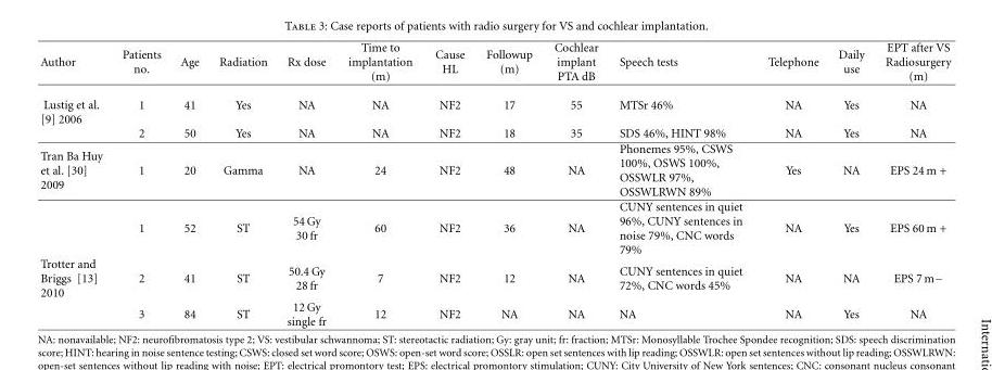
<table><thead><tr><td>Author</td><td>Patients no.</td><td>Age</td><td>Radiation</td><td>Rx dose</td><td>Time to implantation (m)</td><td>Cause HL</td><td>Followup (m)</td><td>Cochlear implant PTA dB</td><td>Speech tests</td><td>Telephone</td><td>Daily use</td><td>EPT after VS Radiosurgery (m)</td></tr></thead><tbody><tr><td rowspan="2">Lustig et al. [9] 2006</td><td>1</td><td>41</td><td>Yes</td><td>NA</td><td>NA</td><td>NF2</td><td>17</td><td>55</td><td>MTSr 46%</td><td>NA</td><td>Yes</td><td>NA</td></tr><tr><td>2</td><td>50</td><td>Yes</td><td>NA</td><td>NA</td><td>NF2</td><td>18</td><td>35</td><td>SDS 46%, HINT 98%</td><td>NA</td><td>Yes</td><td>NA</td></tr><tr><td rowspan="2">Tran Ba Huy et al. [30] 2009</td><td>1</td><td>20</td><td>Gamma</td><td>NA</td><td>24</td><td>NF2</td><td>48</td><td>NA</td><td>Phonemes 95%, CSWS 100%, OSWS 100%, OSSWLR 97%, OSSWLRWN 89%</td><td>Yes</td><td>NA</td><td>EPS 24 m +</td></tr><tr><td>1</td><td>52</td><td>ST</td><td>54 Gy 30 fr</td><td>60</td><td>NF2</td><td>36</td><td>NA</td><td>CUNY sentences in quiet 96%, CUNY sentences in noise 79%, CNC words 79%</td><td>NA</td><td>Yes</td><td>EPS 60 m +</td></tr><tr><td rowspan="2">Trotter and Briggs [13] 2010</td><td>2</td><td>41</td><td>ST</td><td>50.4 Gy 28 fr</td><td>7</td><td>NF2</td><td>12</td><td>NA</td><td>CUNY sentences in quiet 72%, CNC words 45%</td><td>NA</td><td>NA</td><td>EPS 7 m−</td></tr><tr><td>3</td><td>84</td><td>ST</td><td>12 Gy single fr</td><td>12</td><td>NF2</td><td>NA</td><td>NA</td><td>NA</td><td>NA</td><td>Yes</td><td>NA</td></tr></tbody></table>